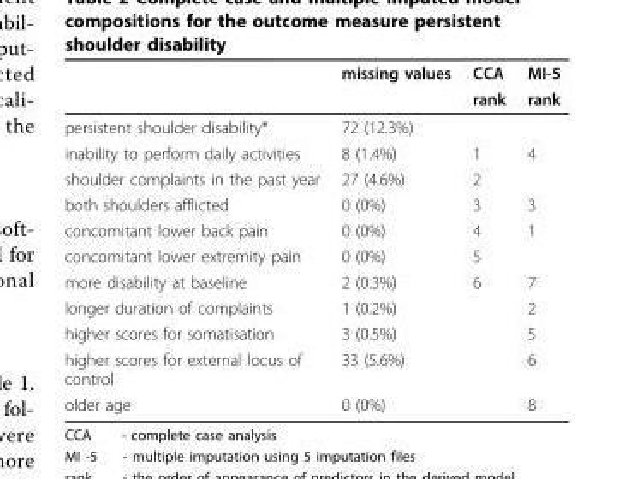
<table><thead><tr><td rowspan="2"></td><td rowspan="2">missing values</td><td rowspan="2">CCA rank</td><td rowspan="2">MI-5 rank</td></tr><tr></tr></thead><tbody><tr><td>persistent shoulder disability*</td><td>72 (12.3%)</td><td></td><td></td></tr><tr><td>inability to perform daily activities</td><td>8 (1.4%)</td><td>1</td><td>4</td></tr><tr><td>shoulder complaints in the past year</td><td>27 (4.6%)</td><td>2</td><td></td></tr><tr><td>both shoulders afflicted</td><td>0 (0%)</td><td>3</td><td>3</td></tr><tr><td>concomitant lower back pain</td><td>0 (0%)</td><td>4</td><td>1</td></tr><tr><td>concomitant lower extremity pain</td><td>0 (0%)</td><td>5</td><td></td></tr><tr><td>more disability at baseline</td><td>2 (0.3%)</td><td>6</td><td>7</td></tr><tr><td>longer duration of complaints</td><td>1 (0.2%)</td><td></td><td>2</td></tr><tr><td>higher scores for somatisation</td><td>3 (0.5%)</td><td></td><td>5</td></tr><tr><td>higher scores for external locus of control</td><td>33 (5.6%)</td><td></td><td>6</td></tr><tr><td>older age</td><td>0 (0%)</td><td></td><td>8</td></tr></tbody></table>